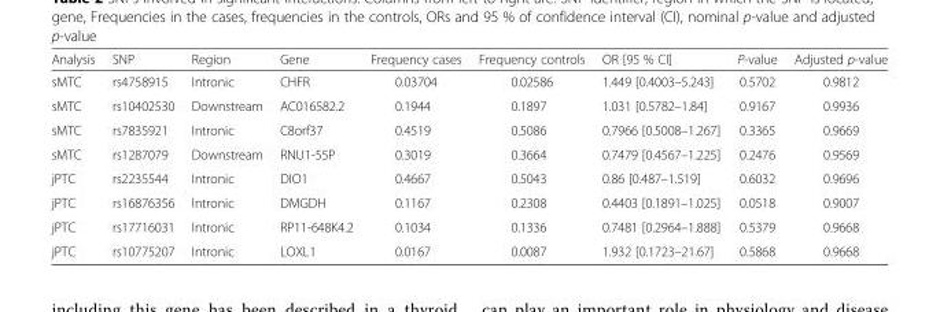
<table><thead><tr><td>Analysis</td><td>SNP</td><td>Region</td><td>Gene</td><td>Frequency cases</td><td>Frequency controls</td><td>OR [95 % CI]</td><td>P-value</td><td>Adjusted p-value</td></tr></thead><tbody><tr><td>sMTC</td><td>rs4758915</td><td>Intronic</td><td>CHFR</td><td>0.03704</td><td>0.02586</td><td>1.449 [0.4003–5.243]</td><td>0.5702</td><td>0.9812</td></tr><tr><td>sMTC</td><td>rs10402530</td><td>Downstream</td><td>AC016582.2</td><td>0.1944</td><td>0.1897</td><td>1.031 [0.5782–1.84]</td><td>0.9167</td><td>0.9936</td></tr><tr><td>sMTC</td><td>rs7835921</td><td>Intronic</td><td>C8orf37</td><td>0.4519</td><td>0.5086</td><td>0.7966 [0.5008–1.267]</td><td>0.3365</td><td>0.9669</td></tr><tr><td>sMTC</td><td>rs1287079</td><td>Downstream</td><td>RNU1-55P</td><td>0.3019</td><td>0.3664</td><td>0.7479 [0.4567–1.225]</td><td>0.2476</td><td>0.9569</td></tr><tr><td>jPTC</td><td>rs2235544</td><td>Intronic</td><td>DIO1</td><td>0.4667</td><td>0.5043</td><td>0.86 [0.487–1.519]</td><td>0.6032</td><td>0.9696</td></tr><tr><td>jPTC</td><td>rs16876356</td><td>Intronic</td><td>DMGDH</td><td>0.1167</td><td>0.2308</td><td>0.4403 [0.1891–1.025]</td><td>0.0518</td><td>0.9007</td></tr><tr><td>jPTC</td><td>rs17716031</td><td>Intronic</td><td>RP11-648K4.2</td><td>0.1034</td><td>0.1336</td><td>0.7481 [0.2964–1.888]</td><td>0.5379</td><td>0.9668</td></tr><tr><td>jPTC</td><td>rs10775207</td><td>Intronic</td><td>LOXL1</td><td>0.0167</td><td>0.0087</td><td>1.932 [0.1723–21.67]</td><td>0.5868</td><td>0.9668</td></tr></tbody></table>